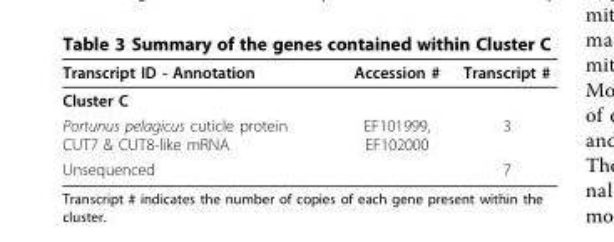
<table><thead><tr><td>Transcript ID - Annotation</td><td>Accession #</td><td>Transcript #</td></tr></thead><tbody><tr><td colspan="3">Cluster C</td></tr><tr><td>Portunus pelagicus cuticle protein CUT7 &amp; CUT8-like mRNA</td><td>EF101999, EF102000</td><td>3</td></tr><tr><td>Unsequenced</td><td></td><td>7</td></tr></tbody></table>